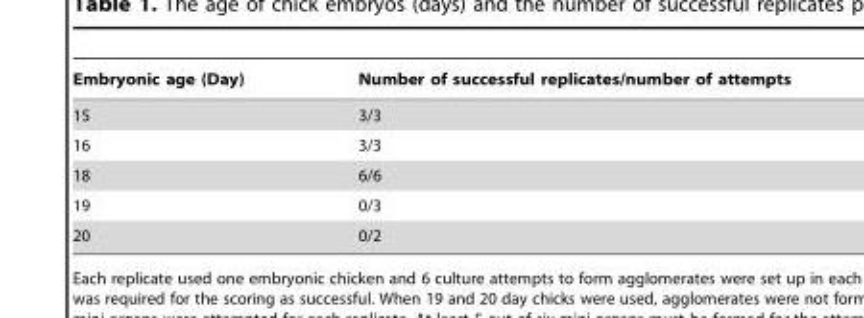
<table><thead><tr><td>Embryonic age (Day)</td><td>Number of successful replicates/number of attempts</td></tr></thead><tbody><tr><td>15</td><td>3/3</td></tr><tr><td>16</td><td>3/3</td></tr><tr><td>18</td><td>6/6</td></tr><tr><td>19</td><td>0/3</td></tr><tr><td>20</td><td>0/2</td></tr></tbody></table>